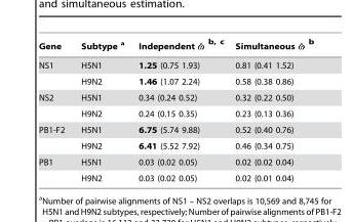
<table><thead><tr><td>Gene</td><td>Subtype a</td><td>Independent ^v b, c</td><td>Simultaneous ^v b</td></tr></thead><tbody><tr><td rowspan="2">NS1</td><td>H5N1</td><td>1.25 (0.75 1.93)</td><td>0.81 (0.41 1.52)</td></tr><tr><td>H9N2</td><td>1.46 (1.07 2.24)</td><td>0.58 (0.38 0.86)</td></tr><tr><td rowspan="2">NS2</td><td>H5N1</td><td>0.34 (0.24 0.52)</td><td>0.32 (0.22 0.50)</td></tr><tr><td>H9N2</td><td>0.24 (0.15 0.35)</td><td>0.23 (0.13 0.36)</td></tr><tr><td rowspan="2">PB1-F2</td><td>H5N1</td><td>6.75 (5.74 9.88)</td><td>0.52 (0.40 0.76)</td></tr><tr><td>H9N2</td><td>6.41 (5.52 7.92)</td><td>0.46 (0.34 0.75)</td></tr><tr><td rowspan="2">PB1</td><td>H5N1</td><td>0.03 (0.02 0.05)</td><td>0.02 (0.02 0.04)</td></tr><tr><td>H9N2</td><td>0.03 (0.02 0.05)</td><td>0.02 (0.01 0.04)</td></tr></tbody></table>